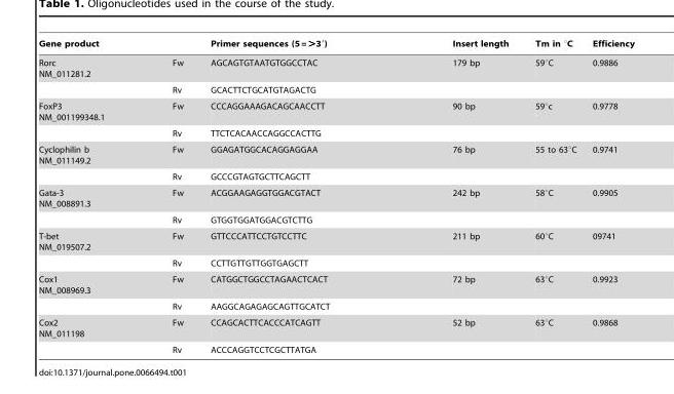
<table><thead><tr><td colspan="2">Gene product</td><td rowspan="2">Primer sequences (5 = &gt;3′) AGCAGTGTAATGTGGCCTAC</td><td rowspan="2">Insert length 179 bp</td><td rowspan="2">Tm in °C 59°C</td><td rowspan="2">Efficiency 0.9886</td></tr><tr><td>Rorc NM_011281.2</td><td>Fw</td></tr></thead><tbody><tr><td></td><td>Rv</td><td>GCACTTCTGCATGTAGACTG</td><td></td><td></td><td></td></tr><tr><td rowspan="2">FoxP3 NM_001199348.1</td><td>Fw</td><td>CCCAGGAAAGACAGCAACCTT</td><td>90 bp</td><td>59°c</td><td>0.9778</td></tr><tr><td>Rv</td><td>TTCTCACAACCAGGCCACTTG</td><td></td><td></td><td></td></tr><tr><td rowspan="2">Cyclophilin b NM_011149.2</td><td>Fw</td><td>GGAGATGGCACAGGAGGAA</td><td>76 bp</td><td>55 to 63°C</td><td>0.9741</td></tr><tr><td>Rv</td><td>GCCCGTAGTGCTTCAGCTT</td><td></td><td></td><td></td></tr><tr><td rowspan="2">Gata-3 NM_008891.3</td><td>Fw</td><td>ACGGAAGAGGTGGACGTACT</td><td>242 bp</td><td>58°C</td><td>0.9905</td></tr><tr><td>Rv</td><td>GTGGTGGATGGACGTCTTG</td><td></td><td></td><td></td></tr><tr><td rowspan="2">T-bet NM_019507.2</td><td>Fw</td><td>GTTCCCATTCCTGTCCTTC</td><td>211 bp</td><td>60°C</td><td>09741</td></tr><tr><td>Rv</td><td>CCTTGTTGTTGGTGAGCTT</td><td></td><td></td><td></td></tr><tr><td rowspan="2">Cox1 NM_008969.3</td><td>Fw</td><td>CATGGCTGGCCTAGAACTCACT</td><td>72 bp</td><td>63°C</td><td>0.9923</td></tr><tr><td>Rv</td><td>AAGGCAGAGAGCAGTTGCATCT</td><td></td><td></td><td></td></tr><tr><td rowspan="2">Cox2 NM_011198</td><td>Fw</td><td>CCAGCACTTCACCCATCAGTT</td><td>52 bp</td><td>63°C</td><td>0.9868</td></tr><tr><td>Rv</td><td>ACCCAGGTCCTCGCTTATGA</td><td></td><td></td><td></td></tr></tbody></table>